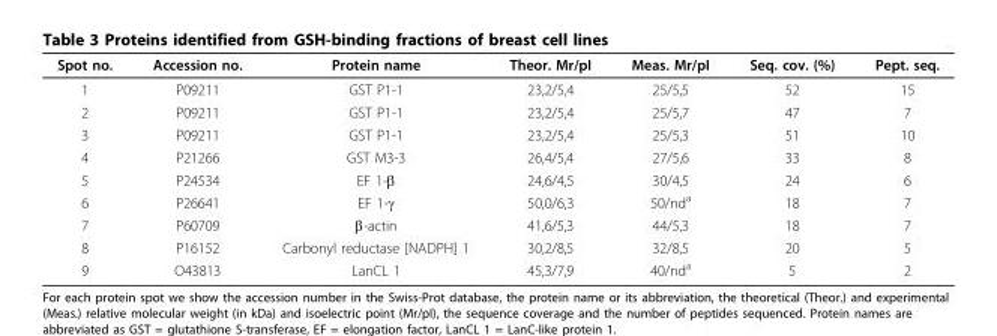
<table><thead><tr><td>Spot no.</td><td>Accession no.</td><td>Protein name</td><td>Theor. Mr/pI</td><td>Meas. Mr/pI</td><td>Seq. cov. (%)</td><td>Pept. seq.</td></tr></thead><tbody><tr><td>1</td><td>P09211</td><td>GST P1-1</td><td>23,2/5,4</td><td>25/5,5</td><td>52</td><td>15</td></tr><tr><td>2</td><td>P09211</td><td>GST P1-1</td><td>23,2/5,4</td><td>25/5,7</td><td>47</td><td>7</td></tr><tr><td>3</td><td>P09211</td><td>GST P1-1</td><td>23,2/5,4</td><td>25/5,3</td><td>51</td><td>10</td></tr><tr><td>4</td><td>P21266</td><td>GST M3-3</td><td>26,4/5,4</td><td>27/5,6</td><td>33</td><td>8</td></tr><tr><td>5</td><td>P24534</td><td>EF 1-β</td><td>24,6/4,5</td><td>30/4,5</td><td>24</td><td>6</td></tr><tr><td>6</td><td>P26641</td><td>EF 1-γ</td><td>50,0/6,3</td><td>50/nd<sup>a</sup></td><td>18</td><td>7</td></tr><tr><td>7</td><td>P60709</td><td>β-actin</td><td>41,6/5,3</td><td>44/5,3</td><td>18</td><td>7</td></tr><tr><td>8</td><td>P16152</td><td>Carbonyl reductase [NADPH] 1</td><td>30,2/8,5</td><td>32/8,5</td><td>20</td><td>5</td></tr><tr><td>9</td><td>O43813</td><td>LanCL 1</td><td>45,3/7,9</td><td>40/nd<sup>a</sup></td><td>5</td><td>2</td></tr></tbody></table>